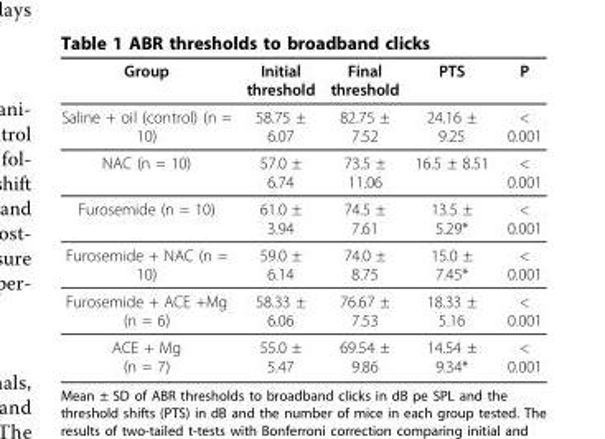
<table><thead><tr><td>Group</td><td>Initial threshold</td><td>Final threshold</td><td>PTS</td><td>P</td></tr></thead><tbody><tr><td>Saline + oil (control) (n = 10)</td><td>58.75 ± 6.07</td><td>82.75 ± 7.52</td><td>24.16 ± 9.25</td><td>&lt; 0.001</td></tr><tr><td>NAC (n = 10)</td><td>57.0 ± 6.74</td><td>73.5 ± 11.06</td><td>16.5 ± 8.51</td><td>&lt; 0.001</td></tr><tr><td>Furosemide (n = 10)</td><td>61.0 ± 3.94</td><td>74.5 ± 7.61</td><td>13.5 ± 5.29*</td><td>&lt; 0.001</td></tr><tr><td>Furosemide + NAC (n = 10)</td><td>59.0 ± 6.14</td><td>74.0 ± 8.75</td><td>15.0 ± 7.45*</td><td>&lt; 0.001</td></tr><tr><td>Furosemide + ACE +Mg (n = 6)</td><td>58.33 ± 6.06</td><td>76.67 ± 7.53</td><td>18.33 ± 5.16</td><td>&lt; 0.001</td></tr><tr><td>ACE + Mg (n = 7)</td><td>55.0 ± 5.47</td><td>69.54 ± 9.86</td><td>14.54 ± 9.34*</td><td>&lt; 0.001</td></tr></tbody></table>